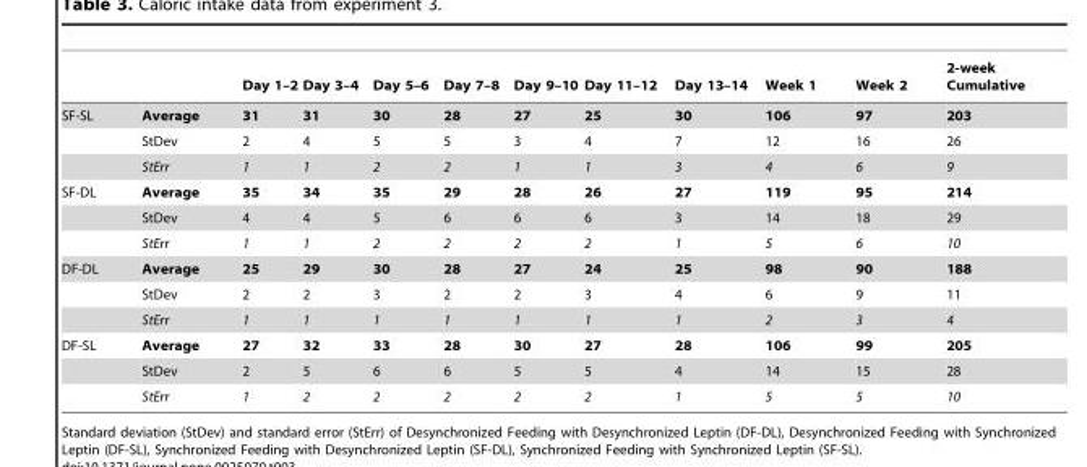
<table><thead><tr><td></td><td></td><td>Day 1–2</td><td>Day 3–4</td><td>Day 5–6</td><td>Day 7–8</td><td>Day 9–10</td><td>Day 11–12</td><td>Day 13–14</td><td>Week 1</td><td>Week 2</td><td>2-week Cumulative</td></tr></thead><tbody><tr><td rowspan="3">SF-SL</td><td>Average</td><td>31</td><td>31</td><td>30</td><td>28</td><td>27</td><td>25</td><td>30</td><td>106</td><td>97</td><td>203</td></tr><tr><td>StDev</td><td>2</td><td>4</td><td>5</td><td>5</td><td>3</td><td>4</td><td>7</td><td>12</td><td>16</td><td>26</td></tr><tr><td>StErr</td><td>1</td><td>1</td><td>2</td><td>2</td><td>1</td><td>1</td><td>3</td><td>4</td><td>6</td><td>9</td></tr><tr><td rowspan="3">SF-DL</td><td>Average</td><td>35</td><td>34</td><td>35</td><td>29</td><td>28</td><td>26</td><td>27</td><td>119</td><td>95</td><td>214</td></tr><tr><td>StDev</td><td>4</td><td>4</td><td>5</td><td>6</td><td>6</td><td>6</td><td>3</td><td>14</td><td>18</td><td>29</td></tr><tr><td>StErr</td><td>1</td><td>1</td><td>2</td><td>2</td><td>2</td><td>2</td><td>1</td><td>5</td><td>6</td><td>10</td></tr><tr><td rowspan="3">DF-DL</td><td>Average</td><td>25</td><td>29</td><td>30</td><td>28</td><td>27</td><td>24</td><td>25</td><td>98</td><td>90</td><td>188</td></tr><tr><td>StDev</td><td>2</td><td>2</td><td>3</td><td>2</td><td>2</td><td>3</td><td>4</td><td>6</td><td>9</td><td>11</td></tr><tr><td>StErr</td><td>1</td><td>1</td><td>1</td><td>1</td><td>1</td><td>1</td><td>1</td><td>2</td><td>3</td><td>4</td></tr><tr><td rowspan="3">DF-SL</td><td>Average</td><td>27</td><td>32</td><td>33</td><td>28</td><td>30</td><td>27</td><td>28</td><td>106</td><td>99</td><td>205</td></tr><tr><td>StDev</td><td>2</td><td>5</td><td>6</td><td>6</td><td>5</td><td>5</td><td>4</td><td>14</td><td>15</td><td>28</td></tr><tr><td>StErr</td><td>1</td><td>2</td><td>2</td><td>2</td><td>2</td><td>2</td><td>1</td><td>5</td><td>5</td><td>10</td></tr></tbody></table>